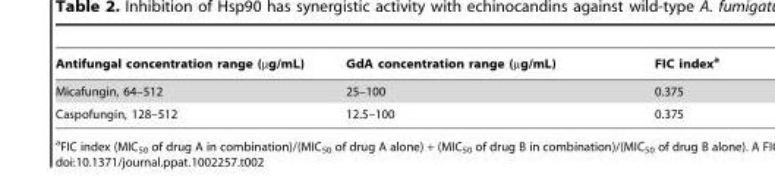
<table><thead><tr><td>Antifungal concentration range (µg/mL)</td><td>GdA concentration range (µg/mL)</td><td>FIC index<sup>a</sup></td></tr></thead><tbody><tr><td>Micafungin, 64–512</td><td>25–100</td><td>0.375</td></tr><tr><td>Caspofungin, 128–512</td><td>12.5–100</td><td>0.375</td></tr></tbody></table>